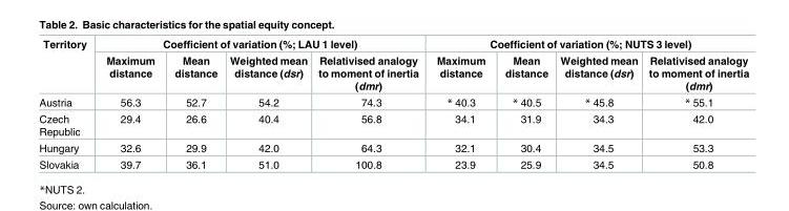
<table><thead><tr><td rowspan="2">Territory</td><td colspan="4">Coefficient of variation (%; LAU 1 level)</td><td colspan="4">Coefficient of variation (%; NUTS 3 level)</td></tr><tr><td>Maximum distance</td><td>Mean distance</td><td>Weighted mean distance (dsr)</td><td>Relativised analogy to moment of inertia (dmr)</td><td>Maximum distance</td><td>Mean distance</td><td>Weighted mean distance (dsr)</td><td>Relativised analogy to moment of inertia (dmr)</td></tr></thead><tbody><tr><td>Austria</td><td>56.3</td><td>52.7</td><td>54.2</td><td>74.3</td><td>* 40.3</td><td>* 40.5</td><td>* 45.8</td><td>* 55.1</td></tr><tr><td>Czech Republic</td><td>29.4</td><td>26.6</td><td>40.4</td><td>56.8</td><td>34.1</td><td>31.9</td><td>34.3</td><td>42.0</td></tr><tr><td>Hungary</td><td>32.6</td><td>29.9</td><td>42.0</td><td>64.3</td><td>32.1</td><td>30.4</td><td>34.5</td><td>53.3</td></tr><tr><td>Slovakia</td><td>39.7</td><td>36.1</td><td>51.0</td><td>100.8</td><td>23.9</td><td>25.9</td><td>34.5</td><td>50.8</td></tr></tbody></table>